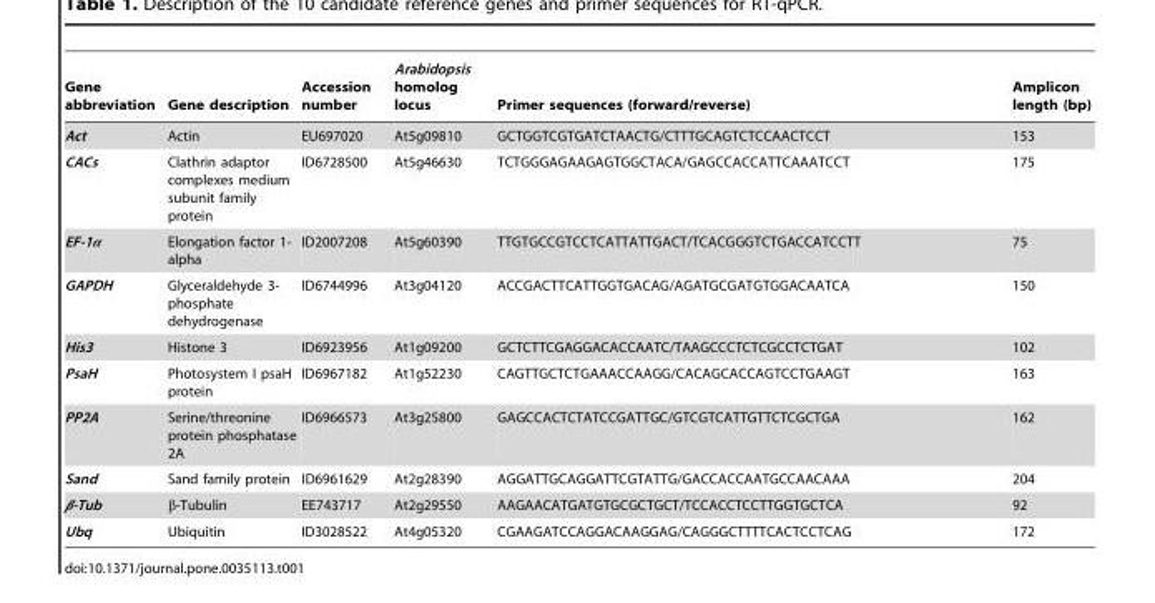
<table><thead><tr><td>Gene abbreviation</td><td>Gene description</td><td>Accession number</td><td>Arabidopsis homolog locus</td><td>Primer sequences (forward/reverse)</td><td>Amplicon length (bp)</td></tr></thead><tbody><tr><td>Act</td><td>Actin</td><td>EU697020</td><td>At5g09810</td><td>GCTGGTCGTGATCTAACTG/CTTTGCAGTCTCCAACTCCT</td><td>153</td></tr><tr><td>CACs</td><td>Clathrin adaptor complexes medium subunit family protein</td><td>ID6728500</td><td>At5g46630</td><td>TCTGGGAGAAGAGTGGCTACA/GAGCCACCATTCAAATCCT</td><td>175</td></tr><tr><td>EF-1α</td><td>Elongation factor 1- alpha</td><td>ID2007208</td><td>At5g60390</td><td>TTGTGCCGTCCTCATTATTGACT/TCACGGGTCTGACCATCCTT</td><td>75</td></tr><tr><td>GAPDH</td><td>Glyceraldehyde 3- phosphate dehydrogenase</td><td>ID6744996</td><td>At3g04120</td><td>ACCGACTTCATTGGTGACAG/AGATGCGATGTGGACAATCA</td><td>150</td></tr><tr><td>His3</td><td>Histone 3</td><td>ID6923956</td><td>At1g09200</td><td>GCTCTTCGAGGACACCAATC/TAAGCCCTCTCGCCTCTGAT</td><td>102</td></tr><tr><td>PsaH</td><td>Photosystem I psaH protein</td><td>ID6967182</td><td>At1g52230</td><td>CAGTTGCTCTGAAACCAAGG/CACAGCACCAGTCCTGAAGT</td><td>163</td></tr><tr><td>PP2A</td><td>Serine/threonine protein phosphatase 2A</td><td>ID6966573</td><td>At3g25800</td><td>GAGCCACTCTATCCGATTGC/GTCGTCATTGTTCTCGCTGA</td><td>162</td></tr><tr><td>Sand</td><td>Sand family protein</td><td>ID6961629</td><td>At2g28390</td><td>AGGATTGCAGGATTCGTATTG/GACCACCAATGCCAACAAA</td><td>204</td></tr><tr><td>β-Tub</td><td>β-Tubulin</td><td>EE743717</td><td>At2g29550</td><td>AAGAACATGATGTGCGCTGCT/TCCACCTCCTTGGTGCTCA</td><td>92</td></tr><tr><td>Ubq</td><td>Ubiquitin</td><td>ID3028522</td><td>At4g05320</td><td>CGAAGATCCAGGACAAGGAG/CAGGGCTTTTCACTCCTCAG</td><td>172</td></tr></tbody></table>